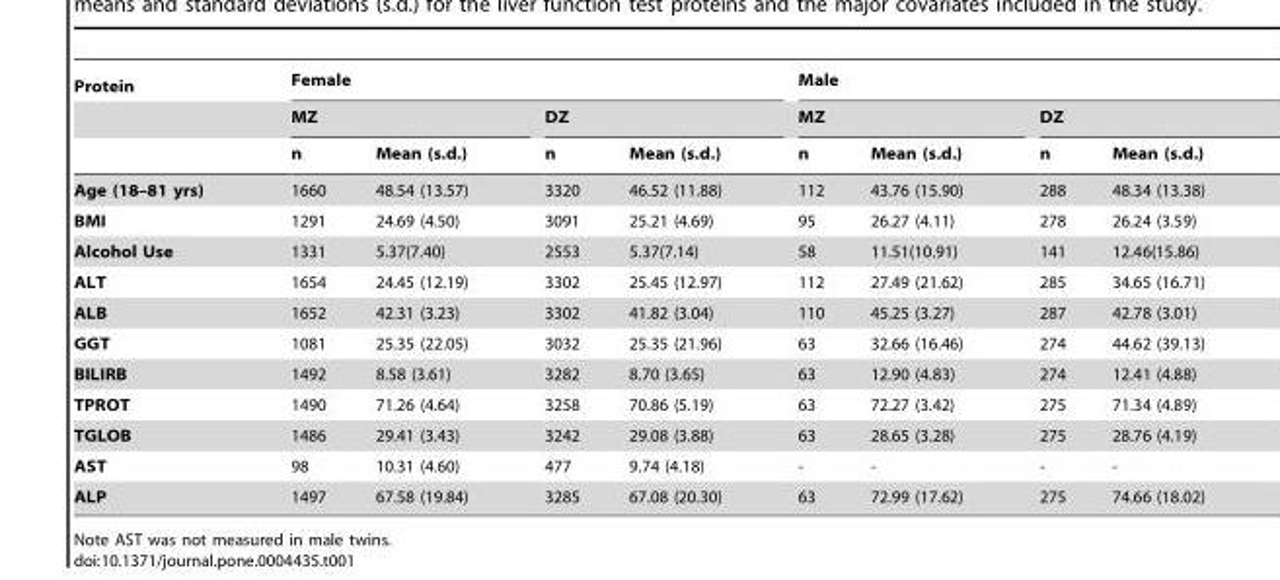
<table><thead><tr><td rowspan="3">Protein</td><td colspan="4">Female</td><td colspan="4">Male</td></tr><tr><td colspan="2">MZ</td><td colspan="2">DZ</td><td colspan="2">MZ</td><td colspan="2">DZ</td></tr><tr><td>n</td><td>Mean (s.d.)</td><td>n</td><td>Mean (s.d.)</td><td>n</td><td>Mean (s.d.)</td><td>n</td><td>Mean (s.d.)</td></tr></thead><tbody><tr><td>Age (18–81 yrs)</td><td>1660</td><td>48.54 (13.57)</td><td>3320</td><td>46.52 (11.88)</td><td>112</td><td>43.76 (15.90)</td><td>288</td><td>48.34 (13.38)</td></tr><tr><td>BMI</td><td>1291</td><td>24.69 (4.50)</td><td>3091</td><td>25.21 (4.69)</td><td>95</td><td>26.27 (4.11)</td><td>278</td><td>26.24 (3.59)</td></tr><tr><td>Alcohol Use</td><td>1331</td><td>5.37(7.40)</td><td>2553</td><td>5.37(7.14)</td><td>58</td><td>11.51(10.91)</td><td>141</td><td>12.46(15.86)</td></tr><tr><td>ALT</td><td>1654</td><td>24.45 (12.19)</td><td>3302</td><td>25.45 (12.97)</td><td>112</td><td>27.49 (21.62)</td><td>285</td><td>34.65 (16.71)</td></tr><tr><td>ALB</td><td>1652</td><td>42.31 (3.23)</td><td>3302</td><td>41.82 (3.04)</td><td>110</td><td>45.25 (3.27)</td><td>287</td><td>42.78 (3.01)</td></tr><tr><td>GGT</td><td>1081</td><td>25.35 (22.05)</td><td>3032</td><td>25.35 (21.96)</td><td>63</td><td>32.66 (16.46)</td><td>274</td><td>44.62 (39.13)</td></tr><tr><td>BILIRB</td><td>1492</td><td>8.58 (3.61)</td><td>3282</td><td>8.70 (3.65)</td><td>63</td><td>12.90 (4.83)</td><td>274</td><td>12.41 (4.88)</td></tr><tr><td>TPROT</td><td>1490</td><td>71.26 (4.64)</td><td>3258</td><td>70.86 (5.19)</td><td>63</td><td>72.27 (3.42)</td><td>275</td><td>71.34 (4.89)</td></tr><tr><td>TGLOB</td><td>1486</td><td>29.41 (3.43)</td><td>3242</td><td>29.08 (3.88)</td><td>63</td><td>28.65 (3.28)</td><td>275</td><td>28.76 (4.19)</td></tr><tr><td>AST</td><td>98</td><td>10.31 (4.60)</td><td>477</td><td>9.74 (4.18)</td><td>-</td><td>-</td><td>-</td><td>-</td></tr><tr><td>ALP</td><td>1497</td><td>67.58 (19.84)</td><td>3285</td><td>67.08 (20.30)</td><td>63</td><td>72.99 (17.62)</td><td>275</td><td>74.66 (18.02)</td></tr></tbody></table>